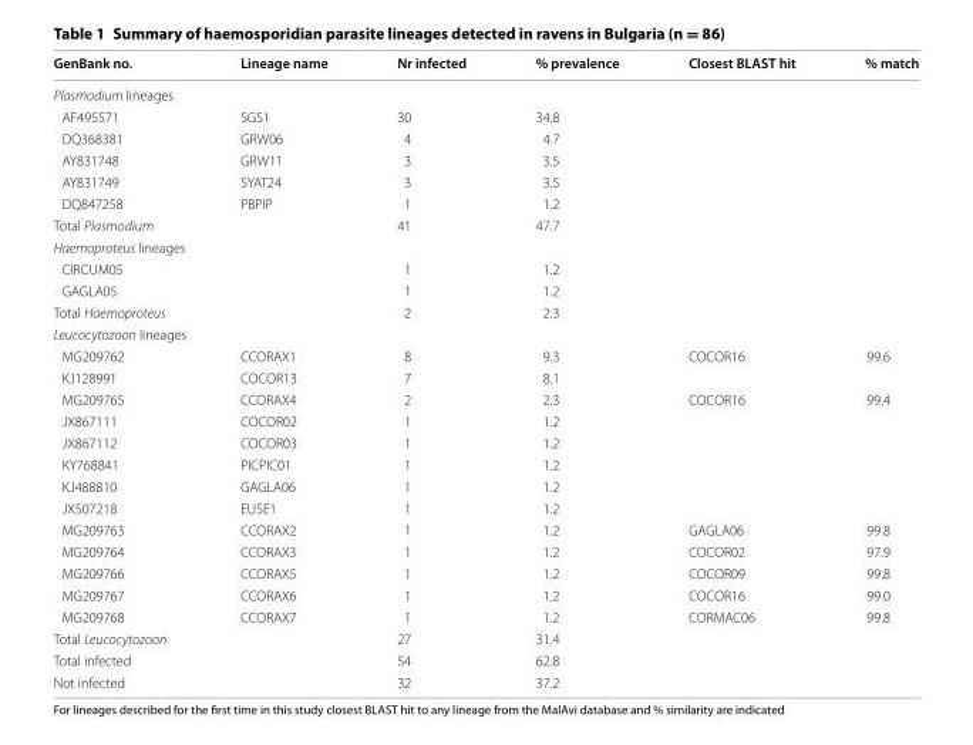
<table><thead><tr><td>GenBank no.</td><td>Lineage name</td><td>Nr infected</td><td>% prevalence</td><td>Closest BLAST hit</td><td>% match</td></tr></thead><tbody><tr><td colspan="6">Plasmodium lineages</td></tr><tr><td>AF495571</td><td>SGS1</td><td>30</td><td>34.8</td><td></td><td></td></tr><tr><td>DQ368381</td><td>GRW06</td><td>4</td><td>4.7</td><td></td><td></td></tr><tr><td>AY831748</td><td>GRW11</td><td>3</td><td>3.5</td><td></td><td></td></tr><tr><td>AY831749</td><td>SYAT24</td><td>3</td><td>3.5</td><td></td><td></td></tr><tr><td>DQ847258</td><td>PBPIP</td><td>1</td><td>1.2</td><td></td><td></td></tr><tr><td colspan="2">Total Plasmodium</td><td>41</td><td>47.7</td><td></td><td></td></tr><tr><td colspan="6">Haemoproteus lineages</td></tr><tr><td>CIRCUM05</td><td></td><td>1</td><td>1.2</td><td></td><td></td></tr><tr><td>GAGLA05</td><td></td><td>1</td><td>1.2</td><td></td><td></td></tr><tr><td colspan="2">Total Haemoproteus</td><td>2</td><td>2.3</td><td></td><td></td></tr><tr><td colspan="6">Leucocytozoon lineages</td></tr><tr><td>MG209762</td><td>CCORAX1</td><td>8</td><td>9.3</td><td>COCOR16</td><td>99.6</td></tr><tr><td>KJ128991</td><td>COCOR13</td><td>7</td><td>8.1</td><td></td><td></td></tr><tr><td>MG209765</td><td>CCORAX4</td><td>2</td><td>2.3</td><td>COCOR16</td><td>99.4</td></tr><tr><td>JX867111</td><td>COCOR02</td><td>1</td><td>1.2</td><td></td><td></td></tr><tr><td>JX867112</td><td>COCOR03</td><td>1</td><td>1.2</td><td></td><td></td></tr><tr><td>KY768841</td><td>PICPIC01</td><td>1</td><td>1.2</td><td></td><td></td></tr><tr><td>KJ488810</td><td>GAGLA06</td><td>1</td><td>1.2</td><td></td><td></td></tr><tr><td>JX507218</td><td>EUSE1</td><td>1</td><td>1.2</td><td></td><td></td></tr><tr><td>MG209763</td><td>CCORAX2</td><td>1</td><td>1.2</td><td>GAGLA06</td><td>99.8</td></tr><tr><td>MG209764</td><td>CCORAX3</td><td>1</td><td>1.2</td><td>COCOR02</td><td>97.9</td></tr><tr><td>MG209766</td><td>CCORAX5</td><td>1</td><td>1.2</td><td>COCOR09</td><td>99.8</td></tr><tr><td>MG209767</td><td>CCORAX6</td><td>1</td><td>1.2</td><td>COCOR16</td><td>99.0</td></tr><tr><td>MG209768</td><td>CCORAX7</td><td>1</td><td>1.2</td><td>CORMAC06</td><td>99.8</td></tr><tr><td colspan="2">Total Leucocytozoon</td><td>27</td><td>31.4</td><td></td><td></td></tr><tr><td colspan="2">Total infected</td><td>54</td><td>62.8</td><td></td><td></td></tr><tr><td colspan="2">Not infected</td><td>32</td><td>37.2</td><td></td><td></td></tr></tbody></table>